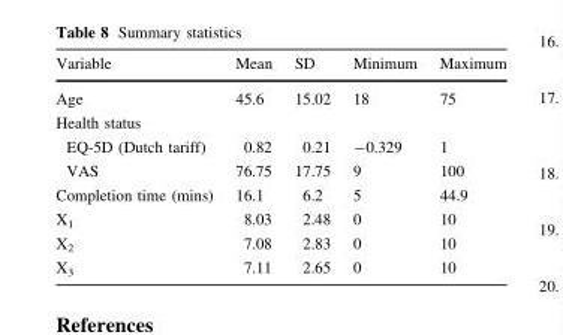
<table><thead><tr><td>Variable</td><td>Mean</td><td>SD</td><td>Minimum</td><td>Maximum</td></tr></thead><tbody><tr><td>Age</td><td>45.6</td><td>15.02</td><td>18</td><td>75</td></tr><tr><td colspan="5">Health status</td></tr><tr><td>EQ-5D (Dutch tariff)</td><td>0.82</td><td>0.21</td><td>-0.329</td><td>1</td></tr><tr><td>VAS</td><td>76.75</td><td>17.75</td><td>9</td><td>100</td></tr><tr><td>Completion time (mins)</td><td>16.1</td><td>6.2</td><td>5</td><td>44.9</td></tr><tr><td>X<sub>1</sub></td><td>8.03</td><td>2.48</td><td>0</td><td>10</td></tr><tr><td>X<sub>2</sub></td><td>7.08</td><td>2.83</td><td>0</td><td>10</td></tr><tr><td>X<sub>3</sub></td><td>7.11</td><td>2.65</td><td>0</td><td>10</td></tr></tbody></table>